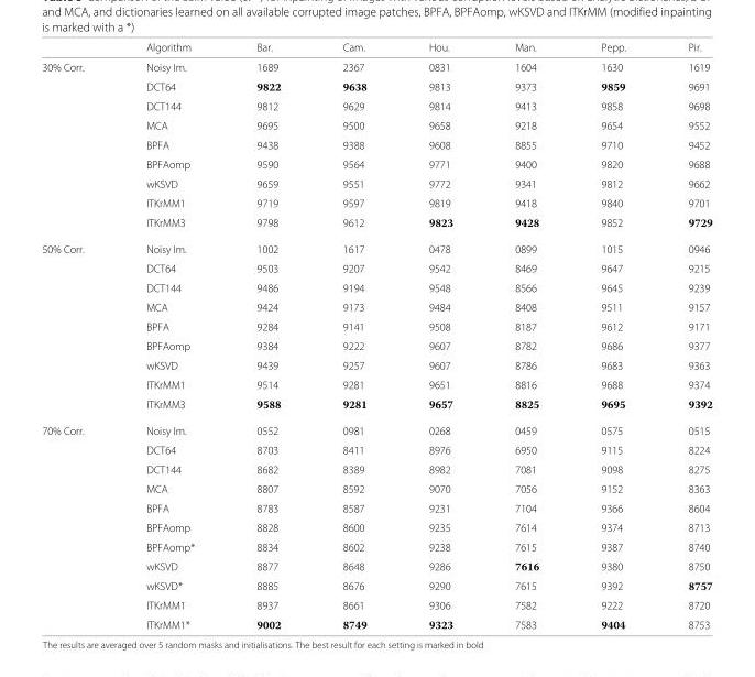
<table><thead><tr><td></td><td>Algorithm</td><td>Bar.</td><td>Cam.</td><td>Hou.</td><td>Man.</td><td>Pepp.</td><td>Pir.</td></tr></thead><tbody><tr><td rowspan="9">30% Corr.</td><td>Noisy Im.</td><td>1689</td><td>2367</td><td>0831</td><td>1604</td><td>1630</td><td>1619</td></tr><tr><td>DCT64</td><td>9822</td><td>9638</td><td>9813</td><td>9373</td><td>9859</td><td>9691</td></tr><tr><td>DCT144</td><td>9812</td><td>9629</td><td>9814</td><td>9413</td><td>9858</td><td>9698</td></tr><tr><td>MCA</td><td>9695</td><td>9500</td><td>9658</td><td>9218</td><td>9654</td><td>9552</td></tr><tr><td>BPFA</td><td>9438</td><td>9388</td><td>9608</td><td>8855</td><td>9710</td><td>9452</td></tr><tr><td>BPFAomp</td><td>9590</td><td>9564</td><td>9771</td><td>9400</td><td>9820</td><td>9688</td></tr><tr><td>wKSVD</td><td>9659</td><td>9551</td><td>9772</td><td>9341</td><td>9812</td><td>9662</td></tr><tr><td>ITKrMM1</td><td>9719</td><td>9597</td><td>9819</td><td>9418</td><td>9840</td><td>9701</td></tr><tr><td>ITKrMM3</td><td>9798</td><td>9612</td><td>9823</td><td>9428</td><td>9852</td><td>9729</td></tr><tr><td rowspan="9">50% Corr.</td><td>Noisy Im.</td><td>1002</td><td>1617</td><td>0478</td><td>0899</td><td>1015</td><td>0946</td></tr><tr><td>DCT64</td><td>9503</td><td>9207</td><td>9542</td><td>8469</td><td>9647</td><td>9215</td></tr><tr><td>DCT144</td><td>9486</td><td>9194</td><td>9548</td><td>8566</td><td>9645</td><td>9239</td></tr><tr><td>MCA</td><td>9424</td><td>9173</td><td>9484</td><td>8408</td><td>9511</td><td>9157</td></tr><tr><td>BPFA</td><td>9284</td><td>9141</td><td>9508</td><td>8187</td><td>9612</td><td>9171</td></tr><tr><td>BPFAomp</td><td>9384</td><td>9222</td><td>9607</td><td>8782</td><td>9686</td><td>9377</td></tr><tr><td>wKSVD</td><td>9439</td><td>9257</td><td>9607</td><td>8786</td><td>9683</td><td>9363</td></tr><tr><td>ITKrMM1</td><td>9514</td><td>9281</td><td>9651</td><td>8816</td><td>9688</td><td>9374</td></tr><tr><td>ITKrMM3</td><td>9588</td><td>9281</td><td>9657</td><td>8825</td><td>9695</td><td>9392</td></tr><tr><td rowspan="11">70% Corr.</td><td>Noisy Im.</td><td>0552</td><td>0981</td><td>0268</td><td>0459</td><td>0575</td><td>0515</td></tr><tr><td>DCT64</td><td>8703</td><td>8411</td><td>8976</td><td>6950</td><td>9115</td><td>8224</td></tr><tr><td>DCT144</td><td>8682</td><td>8389</td><td>8982</td><td>7081</td><td>9098</td><td>8275</td></tr><tr><td>MCA</td><td>8807</td><td>8592</td><td>9070</td><td>7056</td><td>9152</td><td>8363</td></tr><tr><td>BPFA</td><td>8783</td><td>8587</td><td>9231</td><td>7104</td><td>9366</td><td>8604</td></tr><tr><td>BPFAomp</td><td>8828</td><td>8600</td><td>9235</td><td>7614</td><td>9374</td><td>8713</td></tr><tr><td>BPFAomp*</td><td>8834</td><td>8602</td><td>9238</td><td>7615</td><td>9387</td><td>8740</td></tr><tr><td>wKSVD</td><td>8877</td><td>8648</td><td>9286</td><td>7616</td><td>9380</td><td>8750</td></tr><tr><td>wKSVD*</td><td>8885</td><td>8676</td><td>9290</td><td>7615</td><td>9392</td><td>8757</td></tr><tr><td>ITKrMM1</td><td>8937</td><td>8661</td><td>9306</td><td>7582</td><td>9222</td><td>8720</td></tr><tr><td>ITKrMM1*</td><td>9002</td><td>8749</td><td>9323</td><td>7583</td><td>9404</td><td>8753</td></tr></tbody></table>